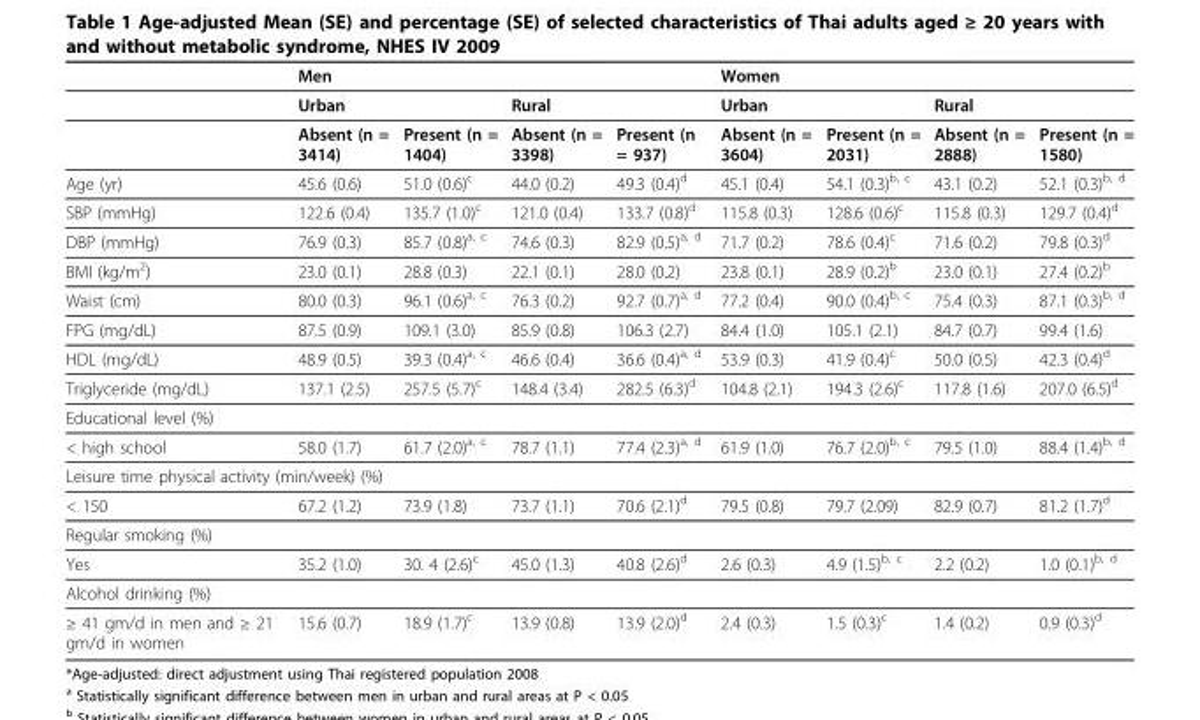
<table><thead><tr><td rowspan="3"></td><td colspan="4">Men</td><td colspan="4">Women</td></tr><tr><td colspan="2">Urban</td><td colspan="2">Rural</td><td colspan="2">Urban</td><td colspan="2">Rural</td></tr><tr><td>Absent (n = 3414)</td><td>Present (n = 1404)</td><td>Absent (n = 3398)</td><td>Present (n = 937)</td><td>Absent (n = 3604)</td><td>Present (n = 2031)</td><td>Absent (n = 2888)</td><td>Present (n = 1580)</td></tr></thead><tbody><tr><td>Age (yr)</td><td>45.6 (0.6)</td><td>51.0 (0.6)<sup>c</sup></td><td>44.0 (0.2)</td><td>49.3 (0.4)<sup>d</sup></td><td>45.1 (0.4)</td><td>54.1 (0.3)<sup>b, c</sup></td><td>43.1 (0.2)</td><td>52.1 (0.3)<sup>b, d</sup></td></tr><tr><td>SBP (mmHg)</td><td>122.6 (0.4)</td><td>135.7 (1.0)<sup>c</sup></td><td>121.0 (0.4)</td><td>133.7 (0.8)<sup>d</sup></td><td>115.8 (0.3)</td><td>128.6 (0.6)<sup>c</sup></td><td>115.8 (0.3)</td><td>129.7 (0.4)<sup>d</sup></td></tr><tr><td>DBP (mmHg)</td><td>76.9 (0.3)</td><td>85.7 (0.8)<sup>a, c</sup></td><td>74.6 (0.3)</td><td>82.9 (0.5)<sup>a, d</sup></td><td>71.7 (0.2)</td><td>78.6 (0.4)<sup>c</sup></td><td>71.6 (0.2)</td><td>79.8 (0.3)<sup>d</sup></td></tr><tr><td>BMI (kg/m<sup>2</sup>)</td><td>23.0 (0.1)</td><td>28.8 (0.3)</td><td>22.1 (0.1)</td><td>28.0 (0.2)</td><td>23.8 (0.1)</td><td>28.9 (0.2)<sup>b</sup></td><td>23.0 (0.1)</td><td>27.4 (0.2)<sup>b</sup></td></tr><tr><td>Waist (cm)</td><td>80.0 (0.3)</td><td>96.1 (0.6)<sup>a, c</sup></td><td>76.3 (0.2)</td><td>92.7 (0.7)<sup>a, d</sup></td><td>77.2 (0.4)</td><td>90.0 (0.4)<sup>b, c</sup></td><td>75.4 (0.3)</td><td>87.1 (0.3)<sup>b, d</sup></td></tr><tr><td>FPG (mg/dL)</td><td>87.5 (0.9)</td><td>109.1 (3.0)</td><td>85.9 (0.8)</td><td>106.3 (2.7)</td><td>84.4 (1.0)</td><td>105.1 (2.1)</td><td>84.7 (0.7)</td><td>99.4 (1.6)</td></tr><tr><td>HDL (mg/dL)</td><td>48.9 (0.5)</td><td>39.3 (0.4)<sup>a, c</sup></td><td>46.6 (0.4)</td><td>36.6 (0.4)<sup>a, d</sup></td><td>53.9 (0.3)</td><td>41.9 (0.4)<sup>c</sup></td><td>50.0 (0.5)</td><td>42.3 (0.4)<sup>d</sup></td></tr><tr><td>Triglyceride (mg/dL)</td><td>137.1 (2.5)</td><td>257.5 (5.7)<sup>c</sup></td><td>148.4 (3.4)</td><td>282.5 (6.3)<sup>d</sup></td><td>104.8 (2.1)</td><td>194.3 (2.6)<sup>c</sup></td><td>117.8 (1.6)</td><td>207.0 (6.5)<sup>d</sup></td></tr><tr><td colspan="9">Educational level (%)</td></tr><tr><td>&lt; high school</td><td>58.0 (1.7)</td><td>61.7 (2.0)<sup>a, c</sup></td><td>78.7 (1.1)</td><td>77.4 (2.3)<sup>a, d</sup></td><td>61.9 (1.0)</td><td>76.7 (2.0)<sup>b, c</sup></td><td>79.5 (1.0)</td><td>88.4 (1.4)<sup>b, d</sup></td></tr><tr><td colspan="9">Leisure time physical activity (min/week) (%)</td></tr><tr><td>&lt; 150</td><td>67.2 (1.2)</td><td>73.9 (1.8)</td><td>73.7 (1.1)</td><td>70.6 (2.1)<sup>d</sup></td><td>79.5 (0.8)</td><td>79.7 (2.09)</td><td>82.9 (0.7)</td><td>81.2 (1.7)<sup>d</sup></td></tr><tr><td colspan="9">Regular smoking (%)</td></tr><tr><td>Yes</td><td>35.2 (1.0)</td><td>30. 4 (2.6)<sup>c</sup></td><td>45.0 (1.3)</td><td>40.8 (2.6)<sup>d</sup></td><td>2.6 (0.3)</td><td>4.9 (1.5)<sup>b, c</sup></td><td>2.2 (0.2)</td><td>1.0 (0.1)<sup>b, d</sup></td></tr><tr><td colspan="9">Alcohol drinking (%)</td></tr><tr><td>≥ 41 gm/d in men and ≥ 21 gm/d in women</td><td>15.6 (0.7)</td><td>18.9 (1.7)<sup>c</sup></td><td>13.9 (0.8)</td><td>13.9 (2.0)<sup>d</sup></td><td>2.4 (0.3)</td><td>1.5 (0.3)<sup>c</sup></td><td>1.4 (0.2)</td><td>0.9 (0.3)<sup>d</sup></td></tr></tbody></table>